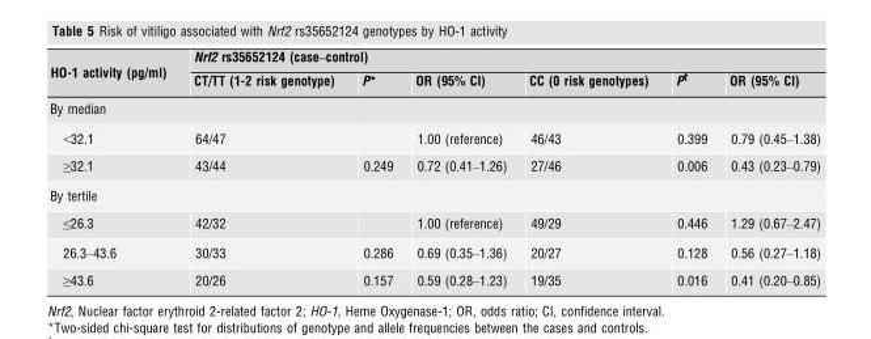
<table><thead><tr><td rowspan="2">HO-1 activity (pg/ml)</td><td colspan="6">Nrf2 rs35652124 (case–control)</td></tr><tr><td>CT/TT (1-2 risk genotype)</td><td>P*</td><td>OR (95% CI)</td><td>CC (0 risk genotypes)</td><td>P†</td><td>OR (95% CI)</td></tr></thead><tbody><tr><td colspan="7">By median</td></tr><tr><td>&lt;32.1</td><td>64/47</td><td></td><td>1.00 (reference)</td><td>46/43</td><td>0.399</td><td>0.79 (0.45–1.38)</td></tr><tr><td>≥32.1</td><td>43/44</td><td>0.249</td><td>0.72 (0.41–1.26)</td><td>27/46</td><td>0.006</td><td>0.43 (0.23–0.79)</td></tr><tr><td colspan="7">By tertile</td></tr><tr><td>≤26.3</td><td>42/32</td><td></td><td>1.00 (reference)</td><td>49/29</td><td>0.446</td><td>1.29 (0.67–2.47)</td></tr><tr><td>26.3–43.6</td><td>30/33</td><td>0.286</td><td>0.69 (0.35–1.36)</td><td>20/27</td><td>0.128</td><td>0.56 (0.27–1.18)</td></tr><tr><td>≥43.6</td><td>20/26</td><td>0.157</td><td>0.59 (0.28–1.23)</td><td>19/35</td><td>0.016</td><td>0.41 (0.20–0.85)</td></tr></tbody></table>